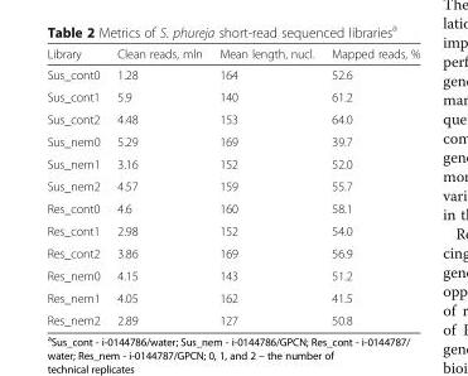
<table><thead><tr><td>Library</td><td>Clean reads, mln</td><td>Mean length, nucl.</td><td>Mapped reads, %</td></tr></thead><tbody><tr><td>Sus_cont0</td><td>1.28</td><td>164</td><td>52.6</td></tr><tr><td>Sus_cont1</td><td>5.9</td><td>140</td><td>61.2</td></tr><tr><td>Sus_cont2</td><td>4.48</td><td>153</td><td>64.0</td></tr><tr><td>Sus_nem0</td><td>5.29</td><td>169</td><td>39.7</td></tr><tr><td>Sus_nem1</td><td>3.16</td><td>152</td><td>52.0</td></tr><tr><td>Sus_nem2</td><td>4.57</td><td>159</td><td>55.7</td></tr><tr><td>Res_cont0</td><td>4.6</td><td>160</td><td>58.1</td></tr><tr><td>Res_cont1</td><td>2.98</td><td>152</td><td>54.0</td></tr><tr><td>Res_cont2</td><td>3.86</td><td>169</td><td>56.9</td></tr><tr><td>Res_nem0</td><td>4.15</td><td>143</td><td>51.2</td></tr><tr><td>Res_nem1</td><td>4.05</td><td>162</td><td>41.5</td></tr><tr><td>Res_nem2</td><td>2.89</td><td>127</td><td>50.8</td></tr></tbody></table>